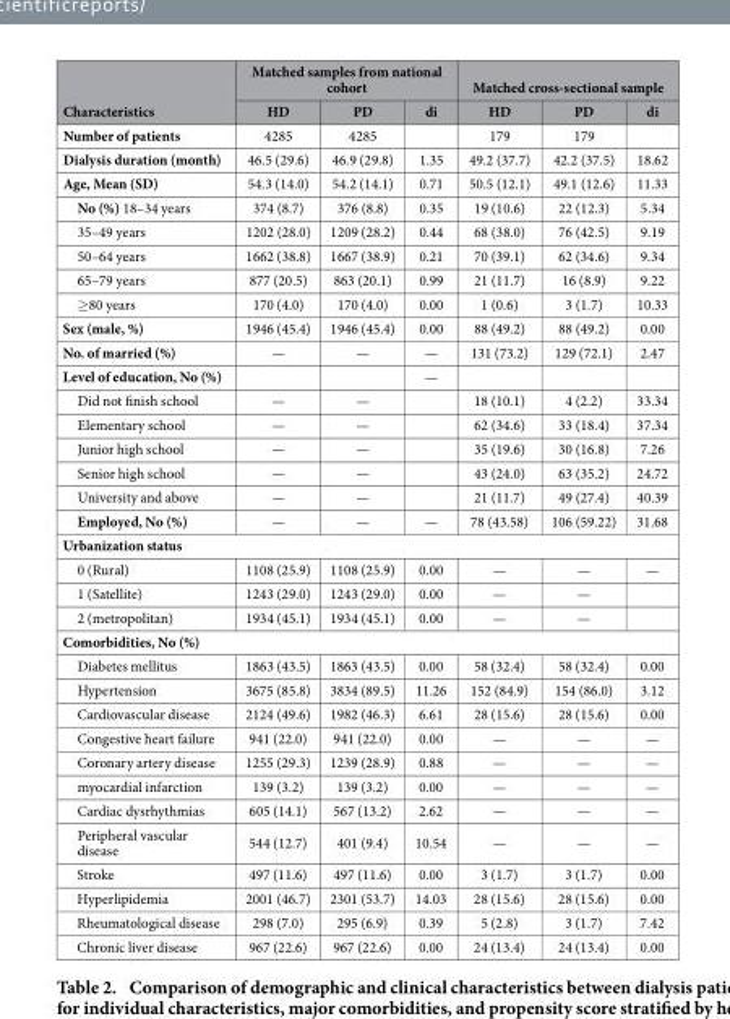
<table><thead><tr><td rowspan="2">Characteristics</td><td colspan="3">Matched samples from national cohort</td><td colspan="3">Matched cross-sectional sample</td></tr><tr><td>HD</td><td>PD</td><td>di</td><td>HD</td><td>PD</td><td>di</td></tr></thead><tbody><tr><td>Number of patients</td><td>4285</td><td>4285</td><td></td><td>179</td><td>179</td><td></td></tr><tr><td>Dialysis duration (month)</td><td>46.5 (29.6)</td><td>46.9 (29.8)</td><td>1.35</td><td>49.2 (37.7)</td><td>42.2 (37.5)</td><td>18.62</td></tr><tr><td>Age, Mean (SD)</td><td>54.3 (14.0)</td><td>54.2 (14.1)</td><td>0.71</td><td>50.5 (12.1)</td><td>49.1 (12.6)</td><td>11.33</td></tr><tr><td>No (%) 18–34 years</td><td>374 (8.7)</td><td>376 (8.8)</td><td>0.35</td><td>19 (10.6)</td><td>22 (12.3)</td><td>5.34</td></tr><tr><td>35–49 years</td><td>1202 (28.0)</td><td>1209 (28.2)</td><td>0.44</td><td>68 (38.0)</td><td>76 (42.5)</td><td>9.19</td></tr><tr><td>50–64 years</td><td>1662 (38.8)</td><td>1667 (38.9)</td><td>0.21</td><td>70 (39.1)</td><td>62 (34.6)</td><td>9.34</td></tr><tr><td>65–79 years</td><td>877 (20.5)</td><td>863 (20.1)</td><td>0.99</td><td>21 (11.7)</td><td>16 (8.9)</td><td>9.22</td></tr><tr><td>≥ 80 years</td><td>170 (4.0)</td><td>170 (4.0)</td><td>0.00</td><td>1 (0.6)</td><td>3 (1.7)</td><td>10.33</td></tr><tr><td>Sex (male, %)</td><td>1946 (45.4)</td><td>1946 (45.4)</td><td>0.00</td><td>88 (49.2)</td><td>88 (49.2)</td><td>0.00</td></tr><tr><td>No. of married (%)</td><td>—</td><td>—</td><td>—</td><td>131 (73.2)</td><td>129 (72.1)</td><td>2.47</td></tr><tr><td>Level of education, No (%)</td><td></td><td></td><td>—</td><td></td><td></td><td></td></tr><tr><td>Did not finish school</td><td>—</td><td>—</td><td></td><td>18 (10.1)</td><td>4 (2.2)</td><td>33.34</td></tr><tr><td>Elementary school</td><td>—</td><td>—</td><td></td><td>62 (34.6)</td><td>33 (18.4)</td><td>37.34</td></tr><tr><td>Junior high school</td><td>—</td><td>—</td><td></td><td>35 (19.6)</td><td>30 (16.8)</td><td>7.26</td></tr><tr><td>Senior high school</td><td>—</td><td>—</td><td></td><td>43 (24.0)</td><td>63 (35.2)</td><td>24.72</td></tr><tr><td>University and above</td><td>—</td><td>—</td><td></td><td>21 (11.7)</td><td>49 (27.4)</td><td>40.39</td></tr><tr><td>Employed, No (%)</td><td>—</td><td>—</td><td>—</td><td>78 (43.58)</td><td>106 (59.22)</td><td>31.68</td></tr><tr><td colspan="7">Urbanization status</td></tr><tr><td>0 (Rural)</td><td>1108 (25.9)</td><td>1108 (25.9)</td><td>0.00</td><td>—</td><td>—</td><td>—</td></tr><tr><td>1 (Satellite)</td><td>1243 (29.0)</td><td>1243 (29.0)</td><td>0.00</td><td>—</td><td>—</td><td></td></tr><tr><td>2 (metropolitan)</td><td>1934 (45.1)</td><td>1934 (45.1)</td><td>0.00</td><td>—</td><td>—</td><td></td></tr><tr><td colspan="7">Comorbidities, No (%)</td></tr><tr><td>Diabetes mellitus</td><td>1863 (43.5)</td><td>1863 (43.5)</td><td>0.00</td><td>58 (32.4)</td><td>58 (32.4)</td><td>0.00</td></tr><tr><td>Hypertension</td><td>3675 (85.8)</td><td>3834 (89.5)</td><td>11.26</td><td>152 (84.9)</td><td>154 (86.0)</td><td>3.12</td></tr><tr><td>Cardiovascular disease</td><td>2124 (49.6)</td><td>1982 (46.3)</td><td>6.61</td><td>28 (15.6)</td><td>28 (15.6)</td><td>0.00</td></tr><tr><td>Congestive heart failure</td><td>941 (22.0)</td><td>941 (22.0)</td><td>0.00</td><td>—</td><td>—</td><td>—</td></tr><tr><td>Coronary artery disease</td><td>1255 (29.3)</td><td>1239 (28.9)</td><td>0.88</td><td>—</td><td>—</td><td>—</td></tr><tr><td>myocardial infarction</td><td>139 (3.2)</td><td>139 (3.2)</td><td>0.00</td><td>—</td><td>—</td><td>—</td></tr><tr><td>Cardiac dysrhythmias</td><td>605 (14.1)</td><td>567 (13.2)</td><td>2.62</td><td>—</td><td>—</td><td>—</td></tr><tr><td>Peripheral vascular disease</td><td>544 (12.7)</td><td>401 (9.4)</td><td>10.54</td><td>—</td><td>—</td><td>—</td></tr><tr><td>Stroke</td><td>497 (11.6)</td><td>497 (11.6)</td><td>0.00</td><td>3 (1.7)</td><td>3 (1.7)</td><td>0.00</td></tr><tr><td>Hyperlipidemia</td><td>2001 (46.7)</td><td>2301 (53.7)</td><td>14.03</td><td>28 (15.6)</td><td>28 (15.6)</td><td>0.00</td></tr><tr><td>Rheumatological disease</td><td>298 (7.0)</td><td>295 (6.9)</td><td>0.39</td><td>5 (2.8)</td><td>3 (1.7)</td><td>7.42</td></tr><tr><td>Chronic liver disease</td><td>967 (22.6)</td><td>967 (22.6)</td><td>0.00</td><td>24 (13.4)</td><td>24 (13.4)</td><td>0.00</td></tr></tbody></table>